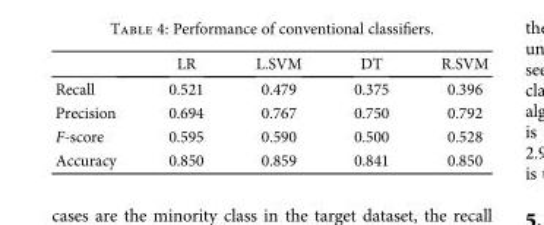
<table><thead><tr><td></td><td>LR</td><td>L.SVM</td><td>DT</td><td>R.SVM</td></tr></thead><tbody><tr><td>Recall</td><td>0.521</td><td>0.479</td><td>0.375</td><td>0.396</td></tr><tr><td>Precision</td><td>0.694</td><td>0.767</td><td>0.750</td><td>0.792</td></tr><tr><td>F-score</td><td>0.595</td><td>0.590</td><td>0.500</td><td>0.528</td></tr><tr><td>Accuracy</td><td>0.850</td><td>0.859</td><td>0.841</td><td>0.850</td></tr></tbody></table>